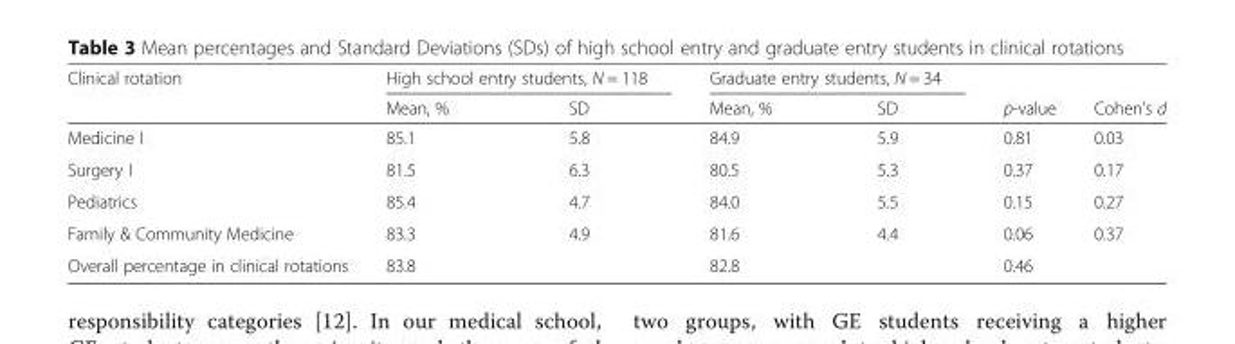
<table><thead><tr><td rowspan="2">Clinical rotation</td><td colspan="2">High school entry students, N = 118</td><td colspan="2">Graduate entry students, N = 34</td><td rowspan="2">p-value</td><td rowspan="2">Cohen’s d</td></tr><tr><td>Mean, %</td><td>SD</td><td>Mean, %</td><td>SD</td></tr></thead><tbody><tr><td>Medicine I</td><td>85.1</td><td>5.8</td><td>84.9</td><td>5.9</td><td>0.81</td><td>0.03</td></tr><tr><td>Surgery I</td><td>81.5</td><td>6.3</td><td>80.5</td><td>5.3</td><td>0.37</td><td>0.17</td></tr><tr><td>Pediatrics</td><td>85.4</td><td>4.7</td><td>84.0</td><td>5.5</td><td>0.15</td><td>0.27</td></tr><tr><td>Family &amp; Community Medicine</td><td>83.3</td><td>4.9</td><td>81.6</td><td>4.4</td><td>0.06</td><td>0.37</td></tr><tr><td>Overall percentage in clinical rotations</td><td colspan="2">83.8</td><td colspan="2">82.8</td><td>0.46</td><td></td></tr></tbody></table>